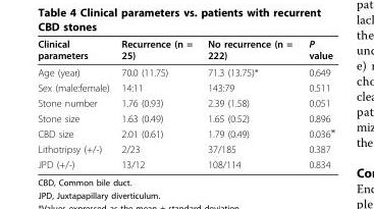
<table><thead><tr><td>Clinical parameters</td><td>Recurrence (n = 25)</td><td>No recurrence (n = 222)</td><td>P value</td></tr></thead><tbody><tr><td>Age (year)</td><td>70.0 (11.75)</td><td>71.3 (13.75)*</td><td>0.649</td></tr><tr><td>Sex (male:female)</td><td>14:11</td><td>143:79</td><td>0.511</td></tr><tr><td>Stone number</td><td>1.76 (0.93)</td><td>2.39 (1.58)</td><td>0.051</td></tr><tr><td>Stone size</td><td>1.63 (0.49)</td><td>1.65 (0.52)</td><td>0.896</td></tr><tr><td>CBD size</td><td>2.01 (0.61)</td><td>1.79 (0.49)</td><td>0.036<sup>⋇</sup></td></tr><tr><td>Lithotripsy (+/-)</td><td>2/23</td><td>37/185</td><td>0.387</td></tr><tr><td>JPD (+/-)</td><td>13/12</td><td>108/114</td><td>0.834</td></tr></tbody></table>